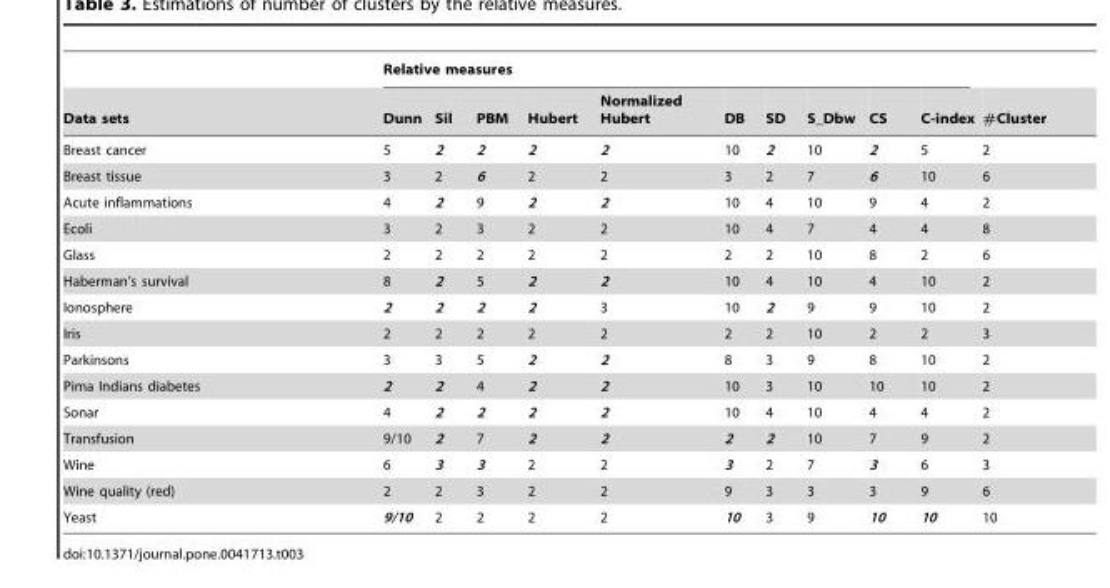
<table><thead><tr><td rowspan="2">Data sets</td><td colspan="10">Relative measures</td><td rowspan="2">#Cluster</td></tr><tr><td>Dunn</td><td>Sil</td><td>PBM</td><td>Hubert</td><td>Normalized Hubert</td><td>DB</td><td>SD</td><td>S_Dbw</td><td>CS</td><td>C-index</td></tr></thead><tbody><tr><td>Breast cancer</td><td>5</td><td>2</td><td>2</td><td>2</td><td>2</td><td>10</td><td>2</td><td>10</td><td>2</td><td>5</td><td>2</td></tr><tr><td>Breast tissue</td><td>3</td><td>2</td><td>6</td><td>2</td><td>2</td><td>3</td><td>2</td><td>7</td><td>6</td><td>10</td><td>6</td></tr><tr><td>Acute inflammations</td><td>4</td><td>2</td><td>9</td><td>2</td><td>2</td><td>10</td><td>4</td><td>10</td><td>9</td><td>4</td><td>2</td></tr><tr><td>Ecoli</td><td>3</td><td>2</td><td>3</td><td>2</td><td>2</td><td>10</td><td>4</td><td>7</td><td>4</td><td>4</td><td>8</td></tr><tr><td>Glass</td><td>2</td><td>2</td><td>2</td><td>2</td><td>2</td><td>2</td><td>2</td><td>10</td><td>8</td><td>2</td><td>6</td></tr><tr><td>Haberman’s survival</td><td>8</td><td>2</td><td>5</td><td>2</td><td>2</td><td>10</td><td>4</td><td>10</td><td>4</td><td>10</td><td>2</td></tr><tr><td>Ionosphere</td><td>2</td><td>2</td><td>2</td><td>2</td><td>3</td><td>10</td><td>2</td><td>9</td><td>9</td><td>10</td><td>2</td></tr><tr><td>Iris</td><td>2</td><td>2</td><td>2</td><td>2</td><td>2</td><td>2</td><td>2</td><td>10</td><td>2</td><td>2</td><td>3</td></tr><tr><td>Parkinsons</td><td>3</td><td>3</td><td>5</td><td>2</td><td>2</td><td>8</td><td>3</td><td>9</td><td>8</td><td>10</td><td>2</td></tr><tr><td>Pima Indians diabetes</td><td>2</td><td>2</td><td>4</td><td>2</td><td>2</td><td>10</td><td>3</td><td>10</td><td>10</td><td>10</td><td>2</td></tr><tr><td>Sonar</td><td>4</td><td>2</td><td>2</td><td>2</td><td>2</td><td>10</td><td>4</td><td>10</td><td>4</td><td>4</td><td>2</td></tr><tr><td>Transfusion</td><td>9/10</td><td>2</td><td>7</td><td>2</td><td>2</td><td>2</td><td>2</td><td>10</td><td>7</td><td>9</td><td>2</td></tr><tr><td>Wine</td><td>6</td><td>3</td><td>3</td><td>2</td><td>2</td><td>3</td><td>2</td><td>7</td><td>3</td><td>6</td><td>3</td></tr><tr><td>Wine quality (red)</td><td>2</td><td>2</td><td>3</td><td>2</td><td>2</td><td>9</td><td>3</td><td>3</td><td>3</td><td>9</td><td>6</td></tr><tr><td>Yeast</td><td>9/10</td><td>2</td><td>2</td><td>2</td><td>2</td><td>10</td><td>3</td><td>9</td><td>10</td><td>10</td><td>10</td></tr></tbody></table>